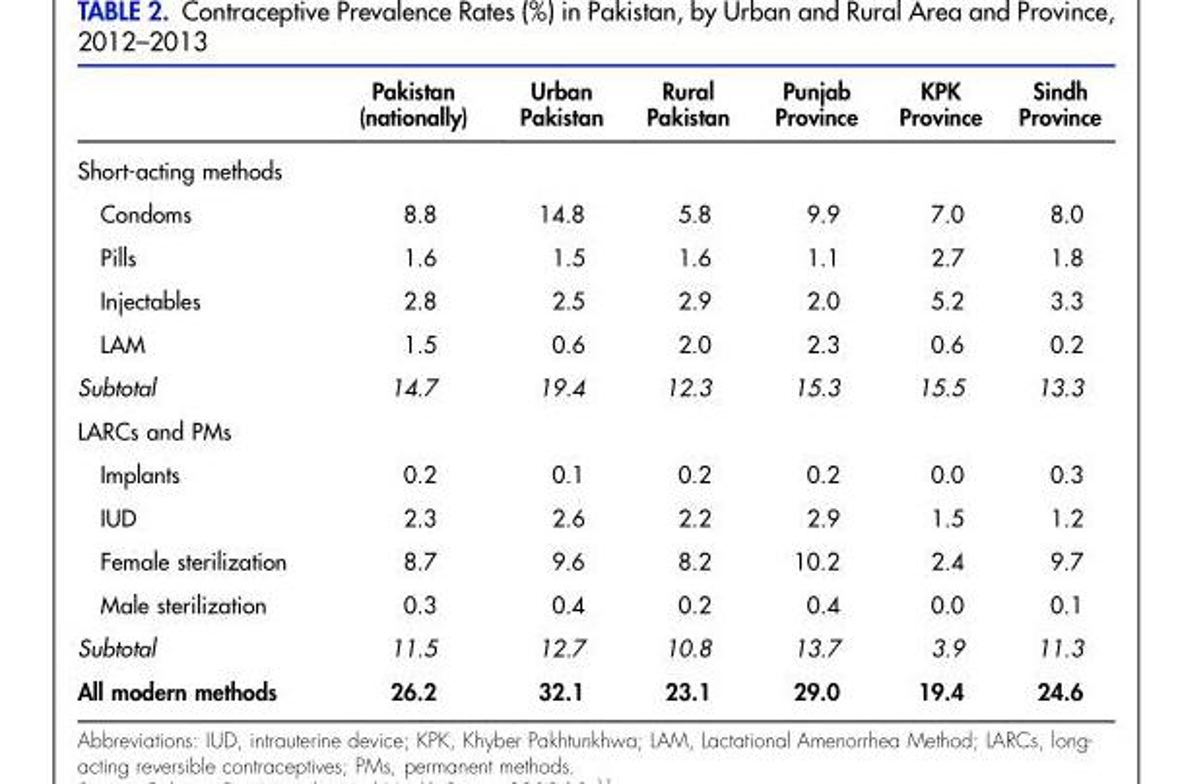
<table><thead><tr><td></td><td>Pakistan (nationally)</td><td>Urban Pakistan</td><td>Rural Pakistan</td><td>Punjab Province</td><td>KPK Province</td><td>Sindh Province</td></tr></thead><tbody><tr><td colspan="7">Short-acting methods</td></tr><tr><td>Condoms</td><td>8.8</td><td>14.8</td><td>5.8</td><td>9.9</td><td>7.0</td><td>8.0</td></tr><tr><td>Pills</td><td>1.6</td><td>1.5</td><td>1.6</td><td>1.1</td><td>2.7</td><td>1.8</td></tr><tr><td>Injectables</td><td>2.8</td><td>2.5</td><td>2.9</td><td>2.0</td><td>5.2</td><td>3.3</td></tr><tr><td>LAM</td><td>1.5</td><td>0.6</td><td>2.0</td><td>2.3</td><td>0.6</td><td>0.2</td></tr><tr><td>Subtotal</td><td>14.7</td><td>19.4</td><td>12.3</td><td>15.3</td><td>15.5</td><td>13.3</td></tr><tr><td colspan="7">LARCs and PMs</td></tr><tr><td>Implants</td><td>0.2</td><td>0.1</td><td>0.2</td><td>0.2</td><td>0.0</td><td>0.3</td></tr><tr><td>IUD</td><td>2.3</td><td>2.6</td><td>2.2</td><td>2.9</td><td>1.5</td><td>1.2</td></tr><tr><td>Female sterilization</td><td>8.7</td><td>9.6</td><td>8.2</td><td>10.2</td><td>2.4</td><td>9.7</td></tr><tr><td>Male sterilization</td><td>0.3</td><td>0.4</td><td>0.2</td><td>0.4</td><td>0.0</td><td>0.1</td></tr><tr><td>Subtotal</td><td>11.5</td><td>12.7</td><td>10.8</td><td>13.7</td><td>3.9</td><td>11.3</td></tr><tr><td>All modern methods</td><td>26.2</td><td>32.1</td><td>23.1</td><td>29.0</td><td>19.4</td><td>24.6</td></tr></tbody></table>